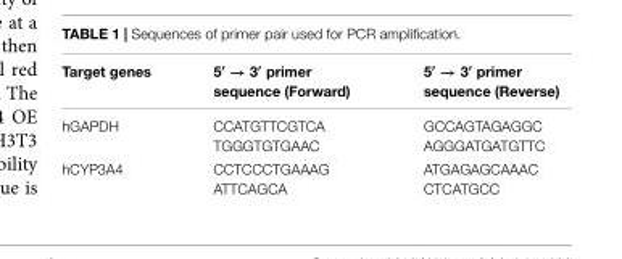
<table><thead><tr><td>Target genes</td><td>5′ → 3′ primer sequence (Forward)</td><td>5′ → 3′ primer sequence (Reverse)</td></tr></thead><tbody><tr><td>hGAPDH</td><td>CCATGTTCGTCA TGGGTGTGAAC</td><td>GCCAGTAGAGGC AGGGATGATGTTC</td></tr><tr><td>hCYP3A4</td><td>CCTCCCTGAAAG ATTCAGCA</td><td>ATGAGAGCAAAC CTCATGCC</td></tr></tbody></table>